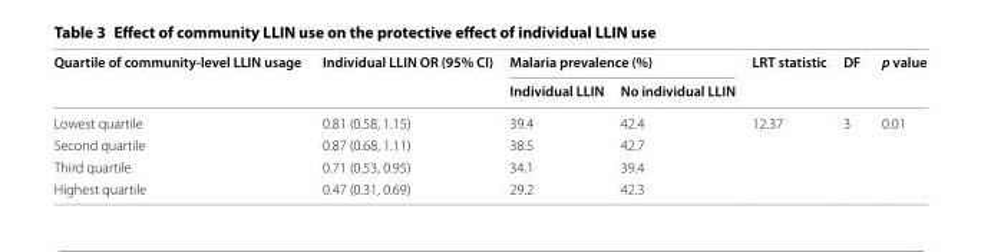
<table><thead><tr><td rowspan="2">Quartile of community-level LLIN usage</td><td rowspan="2">Individual LLIN OR (95% CI)</td><td colspan="2">Malaria prevalence (%)</td><td rowspan="2">LRT statistic</td><td rowspan="2">DF</td><td rowspan="2">p value</td></tr><tr><td>Individual LLIN</td><td>No individual LLIN</td></tr></thead><tbody><tr><td>Lowest quartile</td><td>0.81 (0.58, 1.15)</td><td>39.4</td><td>42.4</td><td>12.37</td><td>3</td><td>0.01</td></tr><tr><td>Second quartile</td><td>0.87 (0.68, 1.11)</td><td>38.5</td><td>42.7</td><td></td><td></td><td></td></tr><tr><td>Third quartile</td><td>0.71 (0.53, 0.95)</td><td>34.1</td><td>39.4</td><td></td><td></td><td></td></tr><tr><td>Highest quartile</td><td>0.47 (0.31, 0.69)</td><td>29.2</td><td>42.3</td><td></td><td></td><td></td></tr></tbody></table>